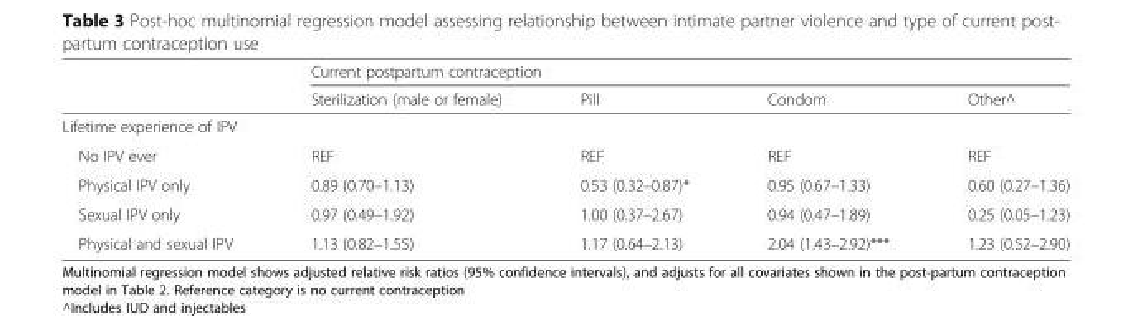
<table><thead><tr><td rowspan="2"></td><td colspan="4">Current postpartum contraception</td></tr><tr><td>Sterilization (male or female)</td><td>Pill</td><td>Condom</td><td>Other^</td></tr></thead><tbody><tr><td colspan="5">Lifetime experience of IPV</td></tr><tr><td>No IPV ever</td><td>REF</td><td>REF</td><td>REF</td><td>REF</td></tr><tr><td>Physical IPV only</td><td>0.89 (0.70–1.13)</td><td>0.53 (0.32–0.87)*</td><td>0.95 (0.67–1.33)</td><td>0.60 (0.27–1.36)</td></tr><tr><td>Sexual IPV only</td><td>0.97 (0.49–1.92)</td><td>1.00 (0.37–2.67)</td><td>0.94 (0.47–1.89)</td><td>0.25 (0.05–1.23)</td></tr><tr><td>Physical and sexual IPV</td><td>1.13 (0.82–1.55)</td><td>1.17 (0.64–2.13)</td><td>2.04 (1.43–2.92)***</td><td>1.23 (0.52–2.90)</td></tr></tbody></table>